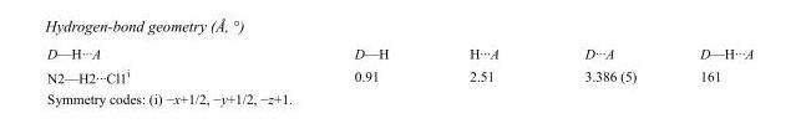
<table><tbody><tr><td>D—H···A</td><td>D—H</td><td>H···A</td><td>D···A</td><td>D—H···A</td></tr><tr><td>N2—H2···Cl1<sup>i</sup></td><td>0.91</td><td>2.51</td><td>3.386 (5)</td><td>161</td></tr></tbody></table>